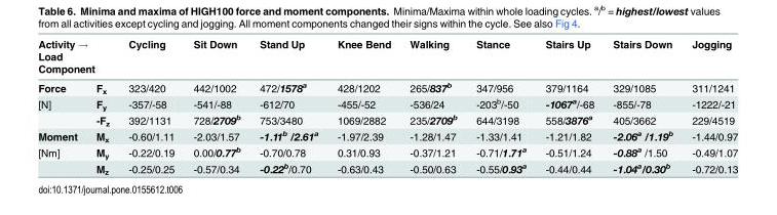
<table><thead><tr><td colspan="2">Activity → Load Component</td><td rowspan="2">Cycling 323/420</td><td rowspan="2">Sit Down 442/1002</td><td rowspan="2">Stand Up 472/1578<sup>a</sup></td><td rowspan="2">Knee Bend 428/1202</td><td rowspan="2">Walking 265/837<sup>b</sup></td><td rowspan="2">Stance 347/956</td><td rowspan="2">Stairs Up 379/1164</td><td rowspan="2">Stairs Down 329/1085</td><td rowspan="2">Jogging 311/1241</td></tr><tr><td>Force</td><td>F<sub>x</sub></td></tr></thead><tbody><tr><td rowspan="2">[N]</td><td>F<sub>y</sub></td><td>-357/-58</td><td>-541/-88</td><td>-612/70</td><td>-455/-52</td><td>-536/24</td><td>-203<sup>b</sup>/-50</td><td>-1067<sup>a</sup>/-68</td><td>-855/-78</td><td>-1222/-21</td></tr><tr><td>-F<sub>z</sub></td><td>392/1131</td><td>728/2709<sup>b</sup></td><td>753/3480</td><td>1069/2882</td><td>235/2709<sup>b</sup></td><td>644/3198</td><td>558/3876<sup>a</sup></td><td>405/3662</td><td>229/4519</td></tr><tr><td>Moment</td><td>M<sub>x</sub></td><td>-0.60/1.11</td><td>-2.03/1.57</td><td>-1.11<sup>b</sup> /2.61<sup>a</sup></td><td>-1.97/2.39</td><td>-1.28/1.47</td><td>-1.33/1.41</td><td>-1.21/1.82</td><td>-2.06<sup>a</sup> /1.19<sup>b</sup></td><td>-1.44/0.97</td></tr><tr><td rowspan="2">[Nm]</td><td>M<sub>y</sub></td><td>-0.22/0.19</td><td>0.00/0.77<sup>b</sup></td><td>-0.70/0.78</td><td>0.31/0.93</td><td>-0.37/1.21</td><td>-0.71/1.71<sup>a</sup></td><td>-0.51/1.24</td><td>-0.88<sup>a</sup> /1.50</td><td>-0.49/1.07</td></tr><tr><td>M<sub>z</sub></td><td>-0.25/0.25</td><td>-0.57/0.34</td><td>-0.22<sup>b</sup>/0.70</td><td>-0.63/0.43</td><td>-0.50/0.63</td><td>-0.55/0.93<sup>a</sup></td><td>-0.44/0.44</td><td>-1.04<sup>a</sup>/0.30<sup>b</sup></td><td>-0.72/0.13</td></tr></tbody></table>